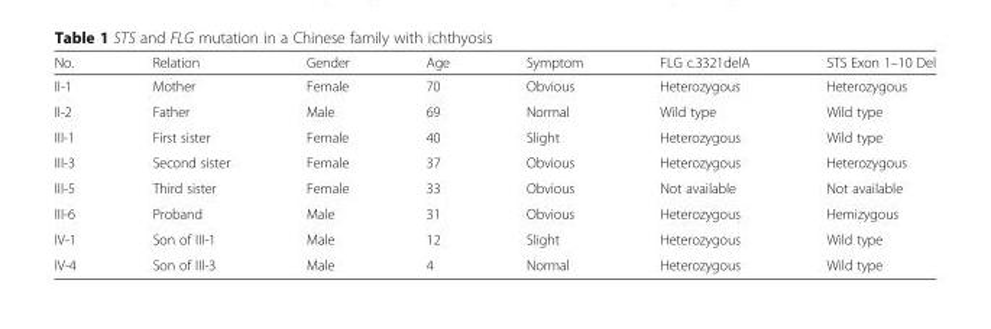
<table><thead><tr><td>No.</td><td>Relation</td><td>Gender</td><td>Age</td><td>Symptom</td><td>FLG c.3321delA</td><td>STS Exon 1–10 Del</td></tr></thead><tbody><tr><td>II-1</td><td>Mother</td><td>Female</td><td>70</td><td>Obvious</td><td>Heterozygous</td><td>Heterozygous</td></tr><tr><td>II-2</td><td>Father</td><td>Male</td><td>69</td><td>Normal</td><td>Wild type</td><td>Wild type</td></tr><tr><td>III-1</td><td>First sister</td><td>Female</td><td>40</td><td>Slight</td><td>Heterozygous</td><td>Wild type</td></tr><tr><td>III-3</td><td>Second sister</td><td>Female</td><td>37</td><td>Obvious</td><td>Heterozygous</td><td>Heterozygous</td></tr><tr><td>III-5</td><td>Third sister</td><td>Female</td><td>33</td><td>Obvious</td><td>Not available</td><td>Not available</td></tr><tr><td>III-6</td><td>Proband</td><td>Male</td><td>31</td><td>Obvious</td><td>Heterozygous</td><td>Hemizygous</td></tr><tr><td>IV-1</td><td>Son of III-1</td><td>Male</td><td>12</td><td>Slight</td><td>Heterozygous</td><td>Wild type</td></tr><tr><td>IV-4</td><td>Son of III-3</td><td>Male</td><td>4</td><td>Normal</td><td>Heterozygous</td><td>Wild type</td></tr></tbody></table>